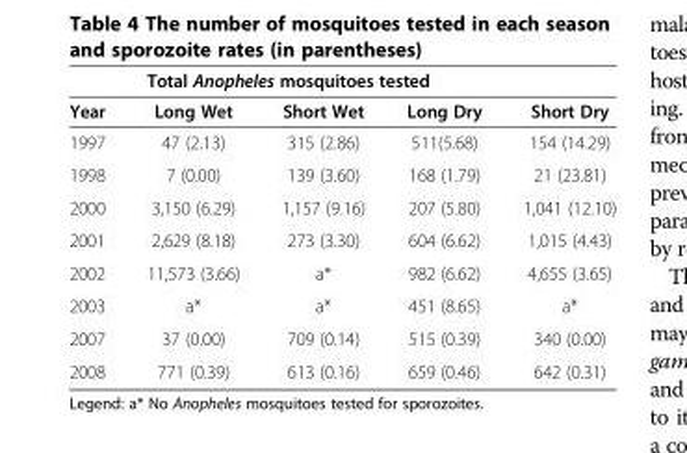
<table><thead><tr><td rowspan="2">Year</td><td colspan="4">Total Anopheles mosquitoes tested</td></tr><tr><td>Long Wet</td><td>Short Wet</td><td>Long Dry</td><td>Short Dry</td></tr></thead><tbody><tr><td>1997</td><td>47 (2.13)</td><td>315 (2.86)</td><td>511(5.68)</td><td>154 (14.29)</td></tr><tr><td>1998</td><td>7 (0.00)</td><td>139 (3.60)</td><td>168 (1.79)</td><td>21 (23.81)</td></tr><tr><td>2000</td><td>3,150 (6.29)</td><td>1,157 (9.16)</td><td>207 (5.80)</td><td>1,041 (12.10)</td></tr><tr><td>2001</td><td>2,629 (8.18)</td><td>273 (3.30)</td><td>604 (6.62)</td><td>1,015 (4.43)</td></tr><tr><td>2002</td><td>11,573 (3.66)</td><td>a*</td><td>982 (6.62)</td><td>4,655 (3.65)</td></tr><tr><td>2003</td><td>a*</td><td>a*</td><td>451 (8.65)</td><td>a*</td></tr><tr><td>2007</td><td>37 (0.00)</td><td>709 (0.14)</td><td>515 (0.39)</td><td>340 (0.00)</td></tr><tr><td>2008</td><td>771 (0.39)</td><td>613 (0.16)</td><td>659 (0.46)</td><td>642 (0.31)</td></tr></tbody></table>